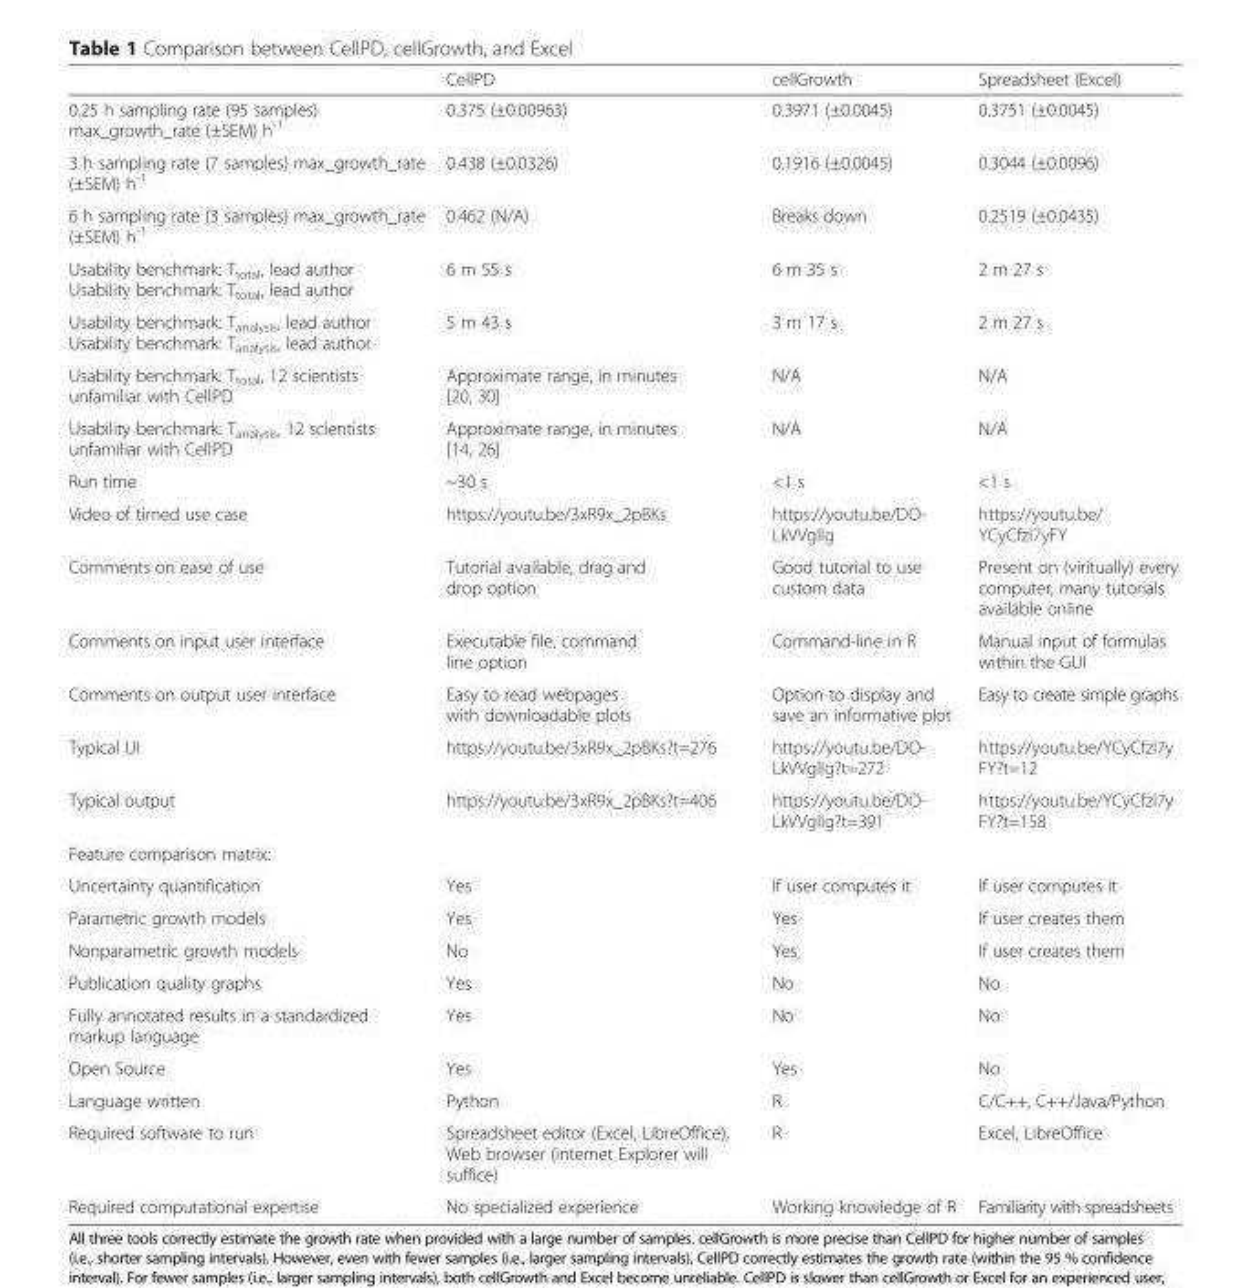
<table><thead><tr><td></td><td>CellPD</td><td>cellGrowth</td><td>Spreadsheet (Excel)</td></tr></thead><tbody><tr><td>0.25 h sampling rate (95 samples) max_growth_rate (±SEM) h<sup>-1</sup></td><td>0.375 (±0.00963)</td><td>0.3971 (±0.0045)</td><td>0.3751 (±0.0045)</td></tr><tr><td>3 h sampling rate (7 samples) max_growth_rate (±SEM) h<sup>-1</sup></td><td>0.438 (±0.0326)</td><td>0.1916 (±0.0045)</td><td>0.3044 (±0.0096)</td></tr><tr><td>6 h sampling rate (3 samples) max_growth_rate (±SEM) h<sup>-1</sup></td><td>0.462 (N/A)</td><td>Breaks down</td><td>0.2519 (±0.0435)</td></tr><tr><td>Usability benchmark: T<sub>total</sub>, lead author Usability benchmark: T<sub>total</sub>, lead author</td><td>6 m 55 s</td><td>6 m 35 s</td><td>2 m 27 s</td></tr><tr><td>Usability benchmark: T<sub>analysis</sub>, lead author Usability benchmark: T<sub>analysis</sub>, lead author</td><td>5 m 43 s</td><td>3 m 17 s</td><td>2 m 27 s</td></tr><tr><td>Usability benchmark: T<sub>total</sub>, 12 scientists unfamiliar with CellPD</td><td>Approximate range, in minutes [20, 30]</td><td>N/A</td><td>N/A</td></tr><tr><td>Usability benchmark: T<sub>analysis</sub>, 12 scientists unfamiliar with CellPD</td><td>Approximate range, in minutes [14, 26]</td><td>N/A</td><td>N/A</td></tr><tr><td>Run time</td><td>~30 s</td><td>&lt;1 s</td><td>&lt;1 s</td></tr><tr><td>Video of timed use case</td><td>https://youtu.be/3xR9x_2pBKs</td><td>https://youtu.be/DO- LkVVglIg</td><td>https://youtu.be/ YCyCfzl7yFY</td></tr><tr><td>Comments on ease of use</td><td>Tutorial available, drag and drop option</td><td>Good tutorial to use custom data</td><td>Present on (viritually) every computer, many tutorials available online</td></tr><tr><td>Comments on input user interface</td><td>Executable file, command line option</td><td>Command-line in R</td><td>Manual input of formulas within the GUI</td></tr><tr><td>Comments on output user interface</td><td>Easy to read webpages with downloadable plots</td><td>Option to display and save an informative plot</td><td>Easy to create simple graphs</td></tr><tr><td>Typical UI</td><td>https://youtu.be/3xR9x_2pBKs?t=276</td><td>https://youtu.be/DO- LkVVglIg?t=272</td><td>https://youtu.be/YCyCfzl7y FY?t=12</td></tr><tr><td>Typical output</td><td>https://youtu.be/3xR9x_2pBKs?t=406</td><td>https://youtu.be/DO- LkVVglIg?t=391</td><td>https://youtu.be/YCyCfzl7y FY?t=158</td></tr><tr><td colspan="4">Feature comparison matrix:</td></tr><tr><td>Uncertainty quantification</td><td>Yes</td><td>If user computes it</td><td>If user computes it</td></tr><tr><td>Parametric growth models</td><td>Yes</td><td>Yes</td><td>If user creates them</td></tr><tr><td>Nonparametric growth models</td><td>No</td><td>Yes</td><td>If user creates them</td></tr><tr><td>Publication quality graphs</td><td>Yes</td><td>No</td><td>No</td></tr><tr><td>Fully annotated results in a standardized markup language</td><td>Yes</td><td>No</td><td>No</td></tr><tr><td>Open Source</td><td>Yes</td><td>Yes</td><td>No</td></tr><tr><td>Language written</td><td>Python</td><td>R</td><td>C/C++, C++/Java/Python</td></tr><tr><td>Required software to run</td><td>Spreadsheet editor (Excel, LibreOffice), Web browser (internet Explorer will suffice)</td><td>R</td><td>Excel, LibreOffice</td></tr><tr><td>Required computational expertise</td><td>No specialized experience</td><td>Working knowledge of R</td><td>Familiarity with spreadsheets</td></tr></tbody></table>